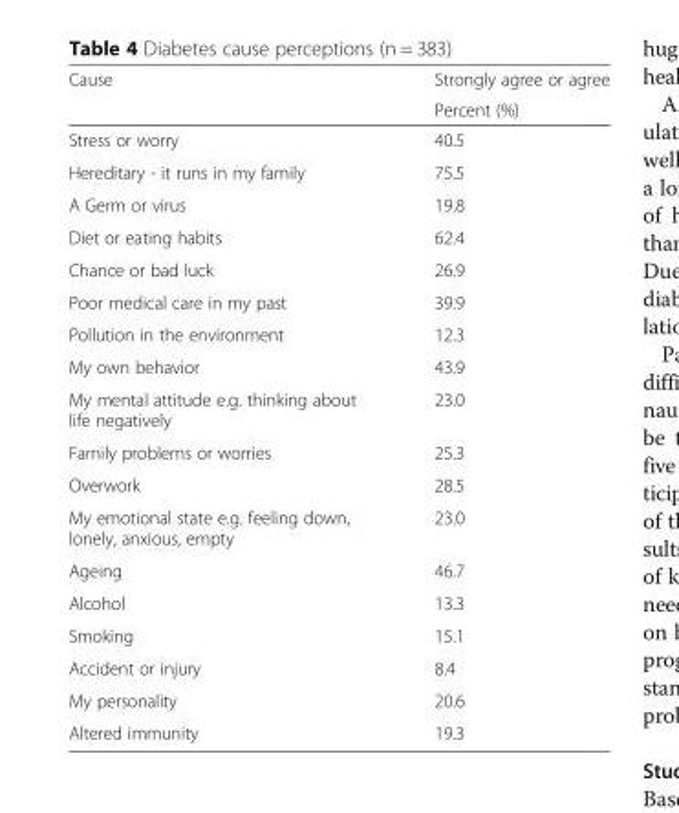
<table><thead><tr><td rowspan="2">Cause</td><td rowspan="2">Strongly agree or agree Percent (%)</td></tr><tr></tr></thead><tbody><tr><td>Stress or worry</td><td>40.5</td></tr><tr><td>Hereditary - it runs in my family</td><td>75.5</td></tr><tr><td>A Germ or virus</td><td>19.8</td></tr><tr><td>Diet or eating habits</td><td>62.4</td></tr><tr><td>Chance or bad luck</td><td>26.9</td></tr><tr><td>Poor medical care in my past</td><td>39.9</td></tr><tr><td>Pollution in the environment</td><td>12.3</td></tr><tr><td>My own behavior</td><td>43.9</td></tr><tr><td>My mental attitude e.g. thinking about life negatively</td><td>23.0</td></tr><tr><td>Family problems or worries</td><td>25.3</td></tr><tr><td>Overwork</td><td>28.5</td></tr><tr><td>My emotional state e.g. feeling down, lonely, anxious, empty</td><td>23.0</td></tr><tr><td>Ageing</td><td>46.7</td></tr><tr><td>Alcohol</td><td>13.3</td></tr><tr><td>Smoking</td><td>15.1</td></tr><tr><td>Accident or injury</td><td>8.4</td></tr><tr><td>My personality</td><td>20.6</td></tr><tr><td>Altered immunity</td><td>19.3</td></tr></tbody></table>